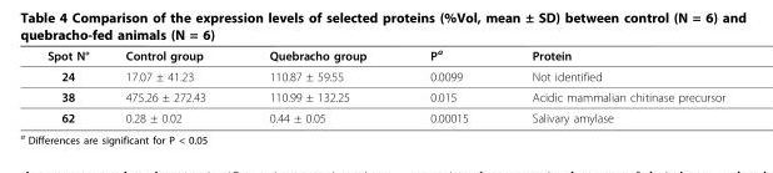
<table><thead><tr><td>Spot N°</td><td>Control group</td><td>Quebracho group</td><td>P<sup>a</sup></td><td>Protein</td></tr></thead><tbody><tr><td>24</td><td>17.07 ± 41.23</td><td>110.87 ± 59.55</td><td>0.0099</td><td>Not identified</td></tr><tr><td>38</td><td>475.26 ± 272.43</td><td>110.99 ± 132.25</td><td>0.015</td><td>Acidic mammalian chitinase precursor</td></tr><tr><td>62</td><td>0.28 ± 0.02</td><td>0.44 ± 0.05</td><td>0.00015</td><td>Salivary amylase</td></tr></tbody></table>